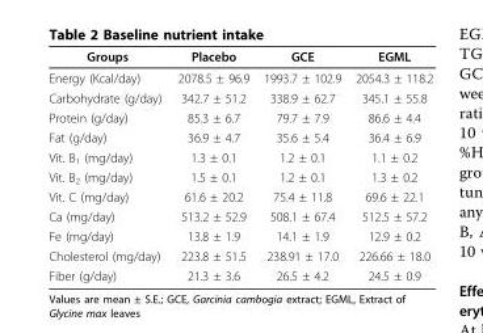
<table><thead><tr><td>Groups</td><td>Placebo</td><td>GCE</td><td>EGML</td></tr></thead><tbody><tr><td>Energy (Kcal/day)</td><td>2078.5 ± 96.9</td><td>1993.7 ± 102.9</td><td>2054.3 ± 118.2</td></tr><tr><td>Carbohydrate (g/day)</td><td>342.7 ± 51.2</td><td>338.9 ± 62.7</td><td>345.1 ± 55.8</td></tr><tr><td>Protein (g/day)</td><td>85.3 ± 6.7</td><td>79.7 ± 7.9</td><td>86.6 ± 4.4</td></tr><tr><td>Fat (g/day)</td><td>36.9 ± 4.7</td><td>35.6 ± 5.4</td><td>36.4 ± 6.9</td></tr><tr><td>Vit. B<sub>1</sub> (mg/day)</td><td>1.3 ± 0.1</td><td>1.2 ± 0.1</td><td>1.1 ± 0.2</td></tr><tr><td>Vit. B<sub>2</sub> (mg/day)</td><td>1.5 ± 0.1</td><td>1.2 ± 0.1</td><td>1.3 ± 0.2</td></tr><tr><td>Vit. C (mg/day)</td><td>61.6 ± 20.2</td><td>75.4 ± 11.8</td><td>69.6 ± 22.1</td></tr><tr><td>Ca (mg/day)</td><td>513.2 ± 52.9</td><td>508.1 ± 67.4</td><td>512.5 ± 57.2</td></tr><tr><td>Fe (mg/day)</td><td>13.8 ± 1.9</td><td>14.1 ± 1.9</td><td>12.9 ± 0.2</td></tr><tr><td>Cholesterol (mg/day)</td><td>223.8 ± 51.5</td><td>238.91 ± 17.0</td><td>226.66 ± 18.0</td></tr><tr><td>Fiber (g/day)</td><td>21.3 ± 3.6</td><td>26.5 ± 4.2</td><td>24.5 ± 0.9</td></tr></tbody></table>